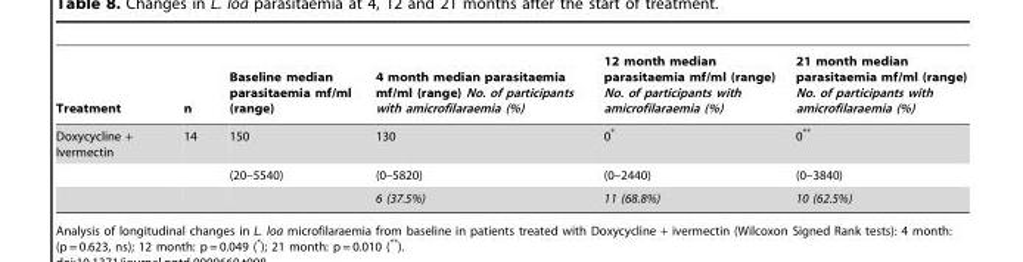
<table><thead><tr><td>Treatment</td><td>n</td><td>Baseline median parasitaemia mf/ml (range)</td><td>4 month median parasitaemia mf/ml (range) No. of participants with amicrofilaraemia (%)</td><td>12 month median parasitaemia mf/ml (range) No. of participants with amicrofilaraemia (%)</td><td>21 month median parasitaemia mf/ml (range) No. of participants with amicrofilaraemia (%)</td></tr></thead><tbody><tr><td rowspan="3">Doxycycline + Ivermectin</td><td>14</td><td>150</td><td>130</td><td>0*</td><td>0**</td></tr><tr><td></td><td>(20–5540)</td><td>(0–5820)</td><td>(0–2440)</td><td>(0–3840)</td></tr><tr><td></td><td></td><td>6 (37.5%)</td><td>11 (68.8%)</td><td>10 (62.5%)</td></tr></tbody></table>